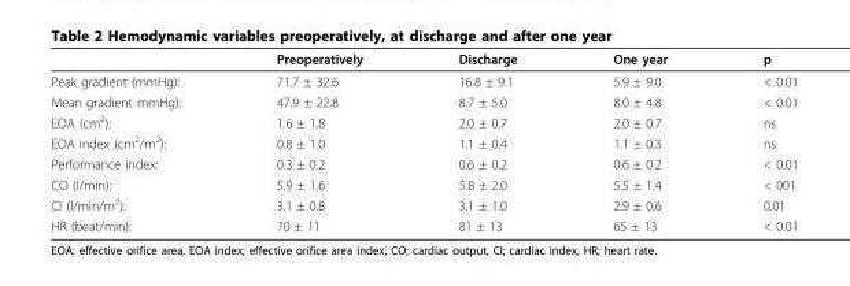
<table><thead><tr><td></td><td>Preoperatively</td><td>Discharge</td><td>One year</td><td>p</td></tr></thead><tbody><tr><td>Peak gradient (mmHg):</td><td>71.7 ± 32.6</td><td>16.8 ± 9.1</td><td>5.9 ± 9.0</td><td>&lt; 0.01</td></tr><tr><td>Mean gradient mmHg):</td><td>47.9 ± 22.8</td><td>8.7 ± 5.0</td><td>8.0 ± 4.8</td><td>&lt; 0.01</td></tr><tr><td>EOA (cm<sup>2</sup>):</td><td>1.6 ± 1.8</td><td>2.0 ± 0.7</td><td>2.0 ± 0.7</td><td>ns</td></tr><tr><td>EOA index (cm<sup>2</sup>/m<sup>2</sup>):</td><td>0.8 ± 1.0</td><td>1.1 ± 0.4</td><td>1.1 ± 0.3</td><td>ns</td></tr><tr><td>Performance index:</td><td>0.3 ± 0.2</td><td>0.6 ± 0.2</td><td>0.6 ± 0.2</td><td>&lt; 0.01</td></tr><tr><td>CO (l/min):</td><td>5.9 ± 1.6</td><td>5.8 ± 2.0</td><td>5.5 ± 1.4</td><td>&lt; 001</td></tr><tr><td>CI (l/min/m<sup>2</sup>):</td><td>3.1 ± 0.8</td><td>3.1 ± 1.0</td><td>2.9 ± 0.6</td><td>0.01</td></tr><tr><td>HR (beat/min):</td><td>70 ± 11</td><td>81 ± 13</td><td>65 ± 13</td><td>&lt; 0.01</td></tr></tbody></table>